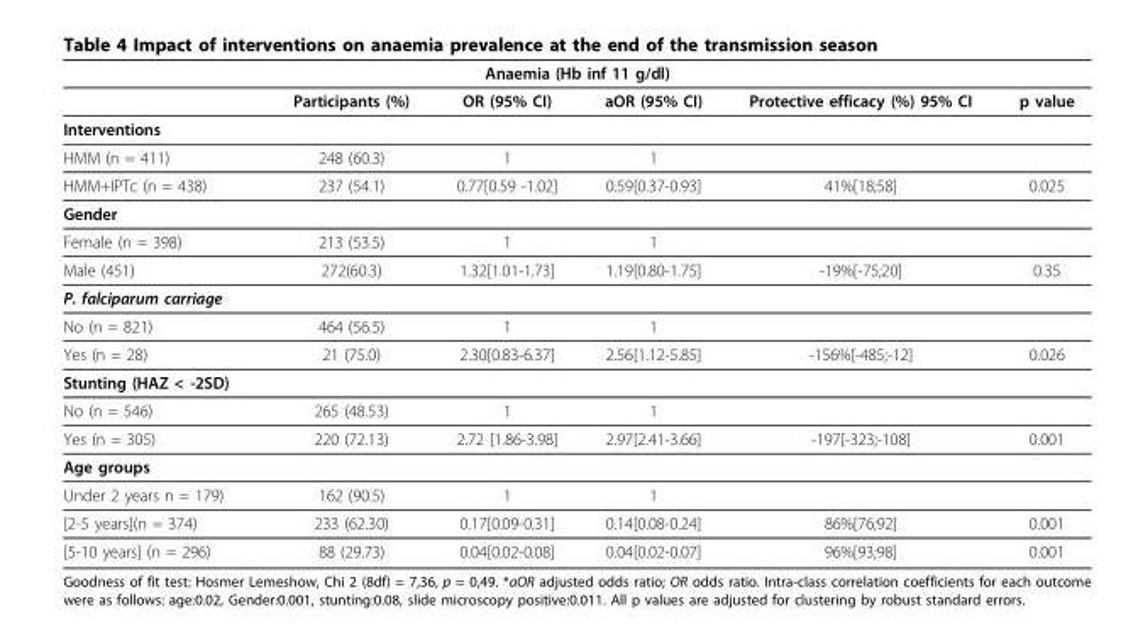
<table><thead><tr><td colspan="6">Anaemia (Hb inf 11 g/dl)</td></tr><tr><td></td><td>Participants (%)</td><td>OR (95% CI)</td><td>aOR (95% CI)</td><td>Protective efficacy (%) 95% CI</td><td>p value</td></tr></thead><tbody><tr><td colspan="6">Interventions</td></tr><tr><td>HMM (n = 411)</td><td>248 (60.3)</td><td>1</td><td>1</td><td></td><td></td></tr><tr><td>HMM+IPTc (n = 438)</td><td>237 (54.1)</td><td>0.77[0.59 -1.02]</td><td>0.59[0.37-0.93]</td><td>41%[18;58]</td><td>0.025</td></tr><tr><td colspan="6">Gender</td></tr><tr><td>Female (n = 398)</td><td>213 (53.5)</td><td>1</td><td>1</td><td></td><td></td></tr><tr><td>Male (451)</td><td>272(60.3)</td><td>1.32[1.01-1.73]</td><td>1.19[0.80-1.75]</td><td>-19%[-75;20]</td><td>0.35</td></tr><tr><td colspan="6">P. falciparum carriage</td></tr><tr><td>No (n = 821)</td><td>464 (56.5)</td><td>1</td><td>1</td><td></td><td></td></tr><tr><td>Yes (n = 28)</td><td>21 (75.0)</td><td>2.30[0.83-6.37]</td><td>2.56[1.12-5.85]</td><td>-156%[-485;-12]</td><td>0.026</td></tr><tr><td colspan="6">Stunting (HAZ &lt; -2SD)</td></tr><tr><td>No (n = 546)</td><td>265 (48.53)</td><td>1</td><td>1</td><td></td><td></td></tr><tr><td>Yes (n = 305)</td><td>220 (72.13)</td><td>2.72 [1.86-3.98]</td><td>2.97[2.41-3.66]</td><td>-197[-323;-108]</td><td>0.001</td></tr><tr><td colspan="6">Age groups</td></tr><tr><td>Under 2 years n = 179)</td><td>162 (90.5)</td><td>1</td><td>1</td><td></td><td></td></tr><tr><td>[2-5 years](n = 374)</td><td>233 (62.30)</td><td>0.17[0.09-0.31]</td><td>0.14[0.08-0.24]</td><td>86%[76;92]</td><td>0.001</td></tr><tr><td>[5-10 years] (n = 296)</td><td>88 (29.73)</td><td>0.04[0.02-0.08]</td><td>0.04[0.02-0.07]</td><td>96%[93;98]</td><td>0.001</td></tr></tbody></table>